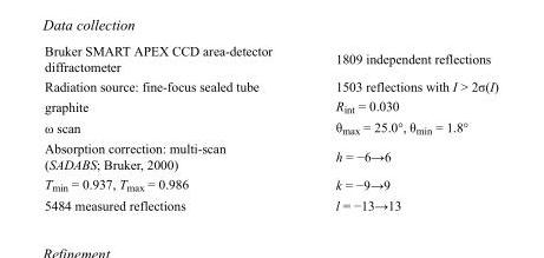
<table><tbody><tr><td>Bruker SMART APEX CCD area-detector diffractometer</td><td>1809 independent reflections</td></tr><tr><td>Radiation source: fine-focus sealed tube</td><td>1503 reflections with I &gt; 2σ(I)</td></tr><tr><td>graphite</td><td>R<sub>int</sub> = 0.030</td></tr><tr><td>ω scan</td><td>θ<sub>max</sub> = 25.0°, θ<sub>min</sub> = 1.8°</td></tr><tr><td>Absorption correction: multi-scan (SADABS; Bruker, 2000)</td><td>h = −6→6</td></tr><tr><td>T<sub>min</sub> = 0.937, T<sub>max</sub> = 0.986</td><td>k = −9→9</td></tr><tr><td>5484 measured reflections</td><td>l = −13→13</td></tr></tbody></table>